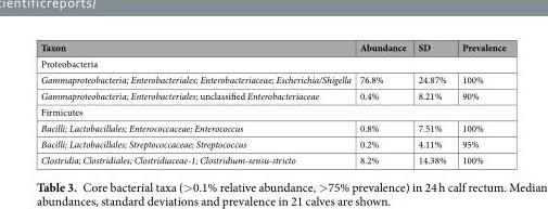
<table><thead><tr><td>Taxon</td><td>Abundance</td><td>SD</td><td>Prevalence</td></tr></thead><tbody><tr><td colspan="4">Proteobacteria</td></tr><tr><td>Gammaproteobacteria; Enterobacteriales; Enterobacteriaceae; Escherichia/Shigella</td><td>76.8%</td><td>24.87%</td><td>100%</td></tr><tr><td>Gammaproteobacteria; Enterobacteriales; unclassified Enterobacteriaceae</td><td>0.4%</td><td>8.21%</td><td>90%</td></tr><tr><td colspan="4">Firmicutes</td></tr><tr><td>Bacilli; Lactobacillales; Enterococcaceae; Enterococcus</td><td>0.8%</td><td>7.51%</td><td>100%</td></tr><tr><td>Bacilli; Lactobacillales; Streptococcaceae; Streptococcus</td><td>0.2%</td><td>4.11%</td><td>95%</td></tr><tr><td>Clostridia; Clostridiales; Clostridiaceae-1; Clostridium-sensu-stricto</td><td>8.2%</td><td>14.38%</td><td>100%</td></tr></tbody></table>